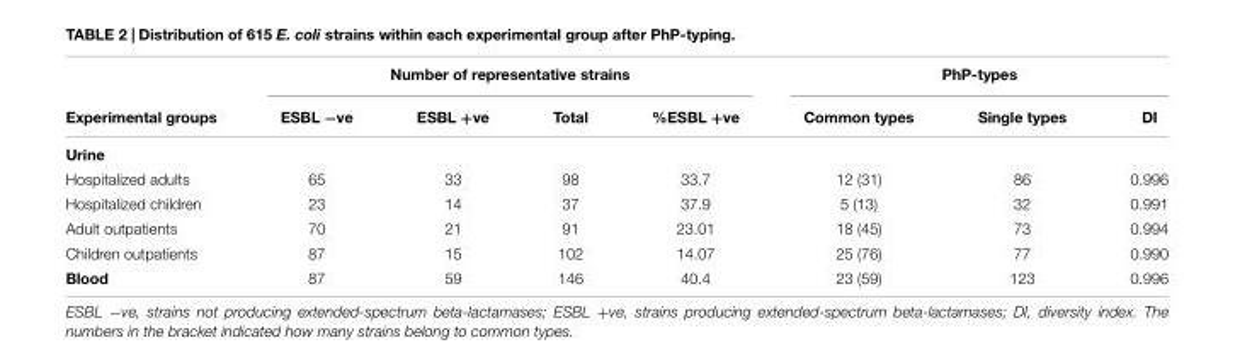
<table><thead><tr><td rowspan="2">Experimental groups</td><td colspan="4">Number of representative strains</td><td colspan="3">PhP-types</td></tr><tr><td>ESBL −ve</td><td>ESBL +ve</td><td>Total</td><td>%ESBL +ve</td><td>Common types</td><td>Single types</td><td>DI</td></tr></thead><tbody><tr><td colspan="8">Urine</td></tr><tr><td>Hospitalized adults</td><td>65</td><td>33</td><td>98</td><td>33.7</td><td>12 (31)</td><td>86</td><td>0.996</td></tr><tr><td>Hospitalized children</td><td>23</td><td>14</td><td>37</td><td>37.9</td><td>5 (13)</td><td>32</td><td>0.991</td></tr><tr><td>Adult outpatients</td><td>70</td><td>21</td><td>91</td><td>23.01</td><td>18 (45)</td><td>73</td><td>0.994</td></tr><tr><td>Children outpatients</td><td>87</td><td>15</td><td>102</td><td>14.07</td><td>25 (76)</td><td>77</td><td>0.990</td></tr><tr><td>Blood</td><td>87</td><td>59</td><td>146</td><td>40.4</td><td>23 (59)</td><td>123</td><td>0.996</td></tr></tbody></table>